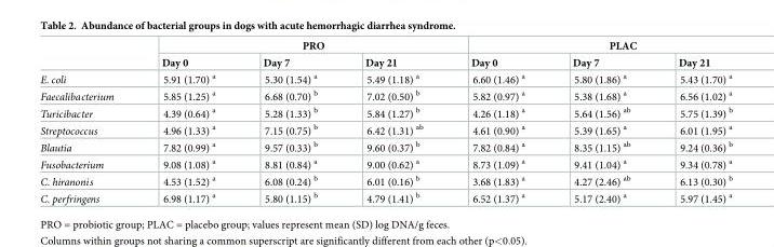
<table><thead><tr><td rowspan="2"></td><td colspan="3">PRO</td><td colspan="3">PLAC</td></tr><tr><td>Day 0</td><td>Day 7</td><td>Day 21</td><td>Day 0</td><td>Day 7</td><td>Day 21</td></tr></thead><tbody><tr><td>E. coli</td><td>5.91 (1.70) <sup>a</sup></td><td>5.30 (1.54) <sup>a</sup></td><td>5.49 (1.18) <sup>a</sup></td><td>6.60 (1.46) <sup>a</sup></td><td>5.80 (1.86) <sup>a</sup></td><td>5.43 (1.70) <sup>a</sup></td></tr><tr><td>Faecalibacterium</td><td>5.85 (1.25) <sup>a</sup></td><td>6.68 (0.70) <sup>b</sup></td><td>7.02 (0.50) <sup>b</sup></td><td>5.82 (0.97) <sup>a</sup></td><td>5.38 (1.68) <sup>a</sup></td><td>6.56 (1.02) <sup>a</sup></td></tr><tr><td>Turicibacter</td><td>4.39 (0.64) <sup>a</sup></td><td>5.28 (1.33) <sup>b</sup></td><td>5.84 (1.27) <sup>b</sup></td><td>4.26 (1.18) <sup>a</sup></td><td>5.64 (1.56) <sup>ab</sup></td><td>5.75 (1.39) <sup>b</sup></td></tr><tr><td>Streptococcus</td><td>4.96 (1.33) <sup>a</sup></td><td>7.15 (0.75) <sup>b</sup></td><td>6.42 (1.31) <sup>ab</sup></td><td>4.61 (0.90) <sup>a</sup></td><td>5.39 (1.65) <sup>a</sup></td><td>6.01 (1.95) <sup>a</sup></td></tr><tr><td>Blautia</td><td>7.82 (0.99) <sup>a</sup></td><td>9.57 (0.33) <sup>b</sup></td><td>9.60 (0.37) <sup>b</sup></td><td>7.82 (0.84) <sup>a</sup></td><td>8.35 (1.15) <sup>ab</sup></td><td>9.24 (0.36) <sup>b</sup></td></tr><tr><td>Fusobacterium</td><td>9.08 (1.08) <sup>a</sup></td><td>8.81 (0.84) <sup>a</sup></td><td>9.00 (0.62) <sup>a</sup></td><td>8.73 (1.09) <sup>a</sup></td><td>9.41 (1.04) <sup>a</sup></td><td>9.34 (0.78) <sup>a</sup></td></tr><tr><td>C. hiranonis</td><td>4.53 (1.52) <sup>a</sup></td><td>6.08 (0.24) <sup>b</sup></td><td>6.01 (0.16) <sup>b</sup></td><td>3.68 (1.83) <sup>a</sup></td><td>4.27 (2.46) <sup>ab</sup></td><td>6.13 (0.30) <sup>b</sup></td></tr><tr><td>C. perfringens</td><td>6.98 (1.17) <sup>a</sup></td><td>5.80 (1.15) <sup>b</sup></td><td>4.79 (1.41) <sup>b</sup></td><td>6.52 (1.37) <sup>a</sup></td><td>5.17 (2.40) <sup>a</sup></td><td>5.97 (1.45) <sup>a</sup></td></tr></tbody></table>